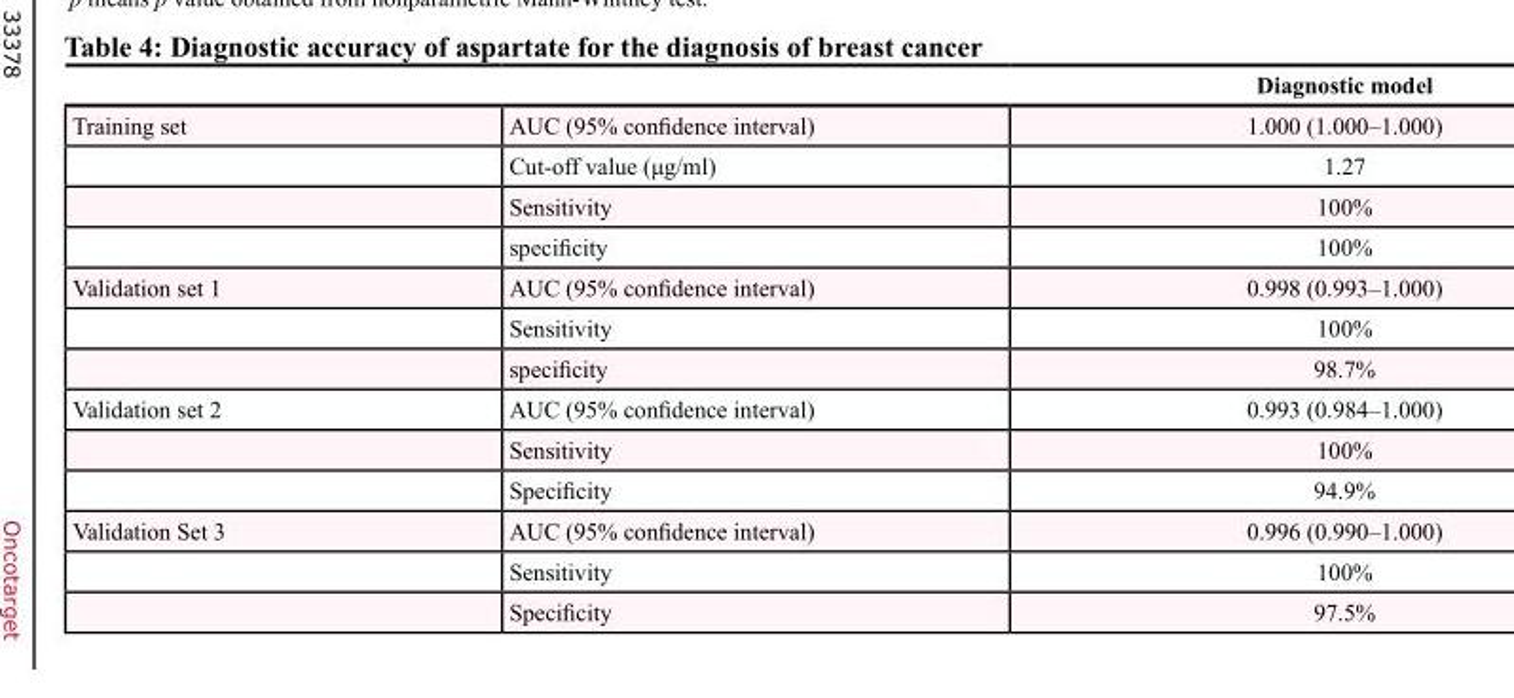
<table><thead><tr><td></td><td></td><td>Diagnostic model</td></tr></thead><tbody><tr><td rowspan="4">Training set</td><td>AUC (95% confidence interval)</td><td>1.000 (1.000–1.000)</td></tr><tr><td>Cut-off value (μg/ml)</td><td>1.27</td></tr><tr><td>Sensitivity</td><td>100%</td></tr><tr><td>specificity</td><td>100%</td></tr><tr><td rowspan="3">Validation set 1</td><td>AUC (95% confidence interval)</td><td>0.998 (0.993–1.000)</td></tr><tr><td>Sensitivity</td><td>100%</td></tr><tr><td>specificity</td><td>98.7%</td></tr><tr><td rowspan="3">Validation set 2</td><td>AUC (95% confidence interval)</td><td>0.993 (0.984–1.000)</td></tr><tr><td>Sensitivity</td><td>100%</td></tr><tr><td>Specificity</td><td>94.9%</td></tr><tr><td rowspan="3">Validation Set 3</td><td>AUC (95% confidence interval)</td><td>0.996 (0.990–1.000)</td></tr><tr><td>Sensitivity</td><td>100%</td></tr><tr><td>Specificity</td><td>97.5%</td></tr></tbody></table>